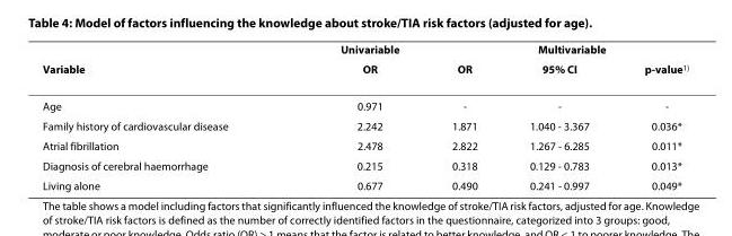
<table><thead><tr><td rowspan="2">Variable</td><td rowspan="2">Univariable OR</td><td colspan="3">Multivariable</td></tr><tr><td>OR</td><td>95% CI</td><td>p-value<sup>1)</sup></td></tr></thead><tbody><tr><td>Age</td><td>0.971</td><td>-</td><td>-</td><td>-</td></tr><tr><td>Family history of cardiovascular disease</td><td>2.242</td><td>1.871</td><td>1.040 - 3.367</td><td>0.036*</td></tr><tr><td>Atrial fibrillation</td><td>2.478</td><td>2.822</td><td>1.267 - 6.285</td><td>0.011*</td></tr><tr><td>Diagnosis of cerebral haemorrhage</td><td>0.215</td><td>0.318</td><td>0.129 - 0.783</td><td>0.013*</td></tr><tr><td>Living alone</td><td>0.677</td><td>0.490</td><td>0.241 - 0.997</td><td>0.049*</td></tr></tbody></table>